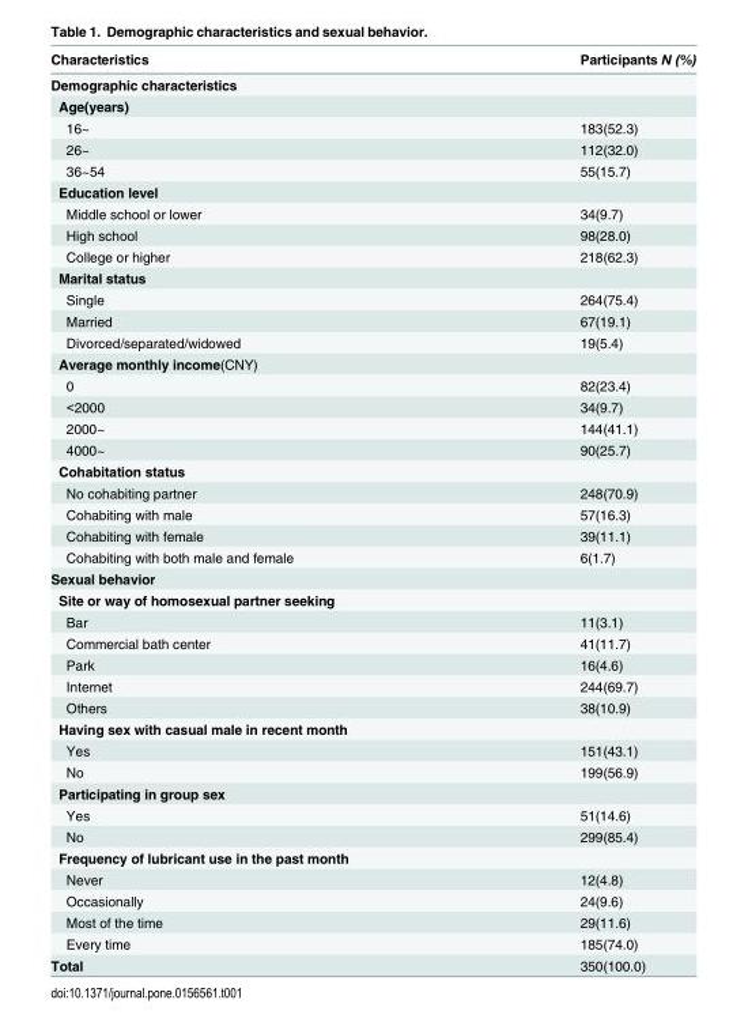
<table><thead><tr><td>Characteristics</td><td>Participants N (%)</td></tr></thead><tbody><tr><td colspan="2">Demographic characteristics</td></tr><tr><td colspan="2">Age(years)</td></tr><tr><td>16~</td><td>183(52.3)</td></tr><tr><td>26~</td><td>112(32.0)</td></tr><tr><td>36~54</td><td>55(15.7)</td></tr><tr><td colspan="2">Education level</td></tr><tr><td>Middle school or lower</td><td>34(9.7)</td></tr><tr><td>High school</td><td>98(28.0)</td></tr><tr><td>College or higher</td><td>218(62.3)</td></tr><tr><td colspan="2">Marital status</td></tr><tr><td>Single</td><td>264(75.4)</td></tr><tr><td>Married</td><td>67(19.1)</td></tr><tr><td>Divorced/separated/widowed</td><td>19(5.4)</td></tr><tr><td colspan="2">Average monthly income(CNY)</td></tr><tr><td>0</td><td>82(23.4)</td></tr><tr><td>&lt;2000</td><td>34(9.7)</td></tr><tr><td>2000~</td><td>144(41.1)</td></tr><tr><td>4000~</td><td>90(25.7)</td></tr><tr><td colspan="2">Cohabitation status</td></tr><tr><td>No cohabiting partner</td><td>248(70.9)</td></tr><tr><td>Cohabiting with male</td><td>57(16.3)</td></tr><tr><td>Cohabiting with female</td><td>39(11.1)</td></tr><tr><td>Cohabiting with both male and female</td><td>6(1.7)</td></tr><tr><td colspan="2">Sexual behavior</td></tr><tr><td colspan="2">Site or way of homosexual partner seeking</td></tr><tr><td>Bar</td><td>11(3.1)</td></tr><tr><td>Commercial bath center</td><td>41(11.7)</td></tr><tr><td>Park</td><td>16(4.6)</td></tr><tr><td>Internet</td><td>244(69.7)</td></tr><tr><td>Others</td><td>38(10.9)</td></tr><tr><td colspan="2">Having sex with casual male in recent month</td></tr><tr><td>Yes</td><td>151(43.1)</td></tr><tr><td>No</td><td>199(56.9)</td></tr><tr><td colspan="2">Participating in group sex</td></tr><tr><td>Yes</td><td>51(14.6)</td></tr><tr><td>No</td><td>299(85.4)</td></tr><tr><td colspan="2">Frequency of lubricant use in the past month</td></tr><tr><td>Never</td><td>12(4.8)</td></tr><tr><td>Occasionally</td><td>24(9.6)</td></tr><tr><td>Most of the time</td><td>29(11.6)</td></tr><tr><td>Every time</td><td>185(74.0)</td></tr><tr><td>Total</td><td>350(100.0)</td></tr></tbody></table>